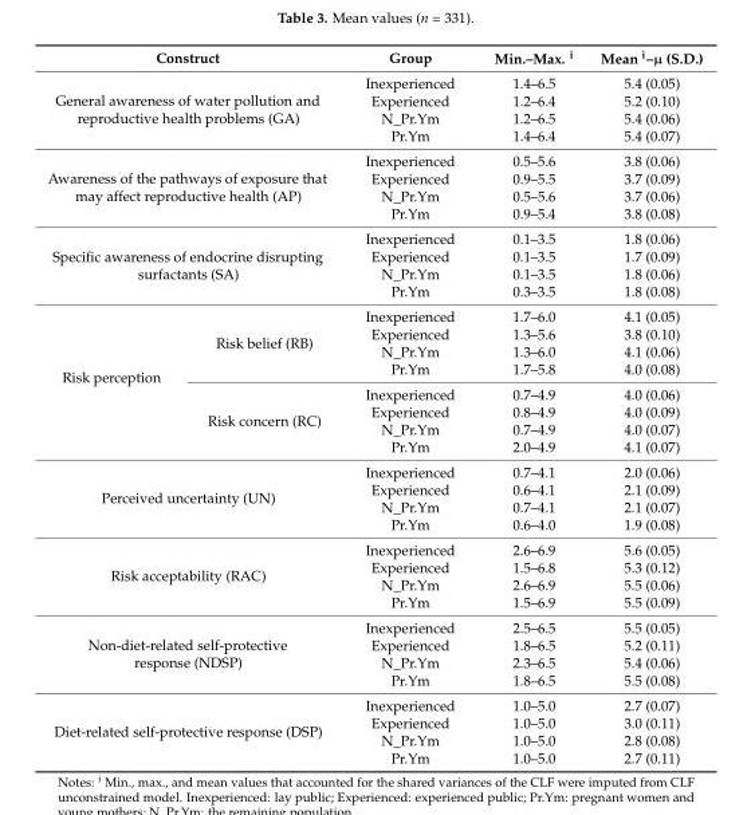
<table><thead><tr><td colspan="2">Construct</td><td>Group</td><td>Min.–Max. <sup>i</sup></td><td>Mean <sup>i</sup>–µ (S.D.)</td></tr></thead><tbody><tr><td rowspan="4" colspan="2">General awareness of water pollution and reproductive health problems (GA)</td><td>Inexperienced</td><td>1.4–6.5</td><td>5.4 (0.05)</td></tr><tr><td>Experienced</td><td>1.2–6.4</td><td>5.2 (0.10)</td></tr><tr><td>N_Pr.Ym</td><td>1.2–6.5</td><td>5.4 (0.06)</td></tr><tr><td>Pr.Ym</td><td>1.4–6.4</td><td>5.4 (0.07)</td></tr><tr><td rowspan="4" colspan="2">Awareness of the pathways of exposure that may affect reproductive health (AP)</td><td>Inexperienced</td><td>0.5–5.6</td><td>3.8 (0.06)</td></tr><tr><td>Experienced</td><td>0.9–5.5</td><td>3.7 (0.09)</td></tr><tr><td>N_Pr.Ym</td><td>0.5–5.6</td><td>3.7 (0.06)</td></tr><tr><td>Pr.Ym</td><td>0.9–5.4</td><td>3.8 (0.08)</td></tr><tr><td rowspan="4" colspan="2">Specific awareness of endocrine disrupting surfactants (SA)</td><td>Inexperienced</td><td>0.1–3.5</td><td>1.8 (0.06)</td></tr><tr><td>Experienced</td><td>0.1–3.5</td><td>1.7 (0.09)</td></tr><tr><td>N_Pr.Ym</td><td>0.1–3.5</td><td>1.8 (0.06)</td></tr><tr><td>Pr.Ym</td><td>0.3–3.5</td><td>1.8 (0.08)</td></tr><tr><td rowspan="8">Risk perception</td><td rowspan="4">Risk belief (RB)</td><td>Inexperienced</td><td>1.7–6.0</td><td>4.1 (0.05)</td></tr><tr><td>Experienced</td><td>1.3–5.6</td><td>3.8 (0.10)</td></tr><tr><td>N_Pr.Ym</td><td>1.3–6.0</td><td>4.1 (0.06)</td></tr><tr><td>Pr.Ym</td><td>1.7–5.8</td><td>4.0 (0.08)</td></tr><tr><td rowspan="4">Risk concern (RC)</td><td>Inexperienced</td><td>0.7–4.9</td><td>4.0 (0.06)</td></tr><tr><td>Experienced</td><td>0.8–4.9</td><td>4.0 (0.09)</td></tr><tr><td>N_Pr.Ym</td><td>0.7–4.9</td><td>4.0 (0.07)</td></tr><tr><td>Pr.Ym</td><td>2.0–4.9</td><td>4.1 (0.07)</td></tr><tr><td rowspan="4" colspan="2">Perceived uncertainty (UN)</td><td>Inexperienced</td><td>0.7–4.1</td><td>2.0 (0.06)</td></tr><tr><td>Experienced</td><td>0.6–4.1</td><td>2.1 (0.09)</td></tr><tr><td>N_Pr.Ym</td><td>0.7–4.1</td><td>2.1 (0.07)</td></tr><tr><td>Pr.Ym</td><td>0.6–4.0</td><td>1.9 (0.08)</td></tr><tr><td rowspan="4" colspan="2">Risk acceptability (RAC)</td><td>Inexperienced</td><td>2.6–6.9</td><td>5.6 (0.05)</td></tr><tr><td>Experienced</td><td>1.5–6.8</td><td>5.3 (0.12)</td></tr><tr><td>N_Pr.Ym</td><td>2.6–6.9</td><td>5.5 (0.06)</td></tr><tr><td>Pr.Ym</td><td>1.5–6.9</td><td>5.5 (0.09)</td></tr><tr><td rowspan="4" colspan="2">Non-diet-related self-protective response (NDSP)</td><td>Inexperienced</td><td>2.5–6.5</td><td>5.5 (0.05)</td></tr><tr><td>Experienced</td><td>1.8–6.5</td><td>5.2 (0.11)</td></tr><tr><td>N_Pr.Ym</td><td>2.3–6.5</td><td>5.4 (0.06)</td></tr><tr><td>Pr.Ym</td><td>1.8–6.5</td><td>5.5 (0.08)</td></tr><tr><td rowspan="4" colspan="2">Diet-related self-protective response (DSP)</td><td>Inexperienced</td><td>1.0–5.0</td><td>2.7 (0.07)</td></tr><tr><td>Experienced</td><td>1.0–5.0</td><td>3.0 (0.11)</td></tr><tr><td>N_Pr.Ym</td><td>1.0–5.0</td><td>2.8 (0.08)</td></tr><tr><td>Pr.Ym</td><td>1.0–5.0</td><td>2.7 (0.11)</td></tr></tbody></table>